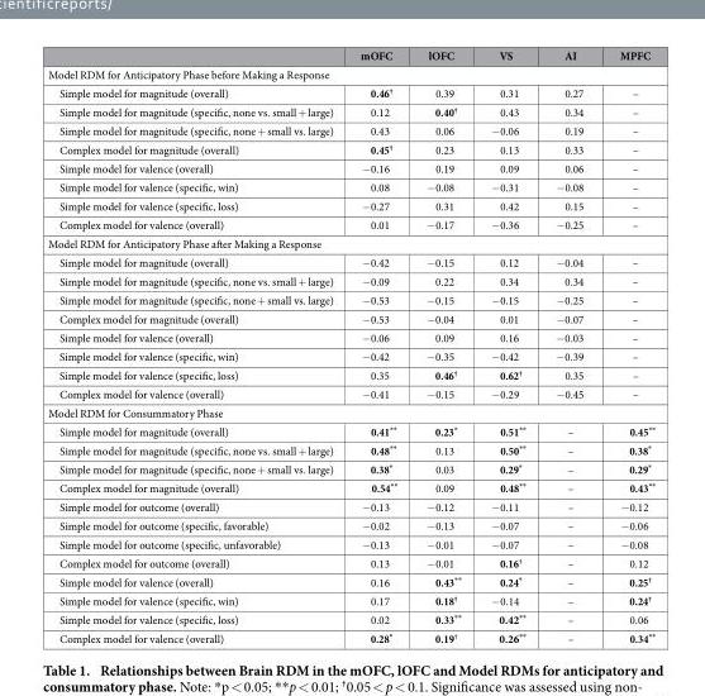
<table><thead><tr><td></td><td>mOFC</td><td>lOFC</td><td>VS</td><td>AI</td><td>MPFC</td></tr></thead><tbody><tr><td colspan="6">Model RDM for Anticipatory Phase before Making a Response</td></tr><tr><td>Simple model for magnitude (overall)</td><td>0.46<sup>†</sup></td><td>0.39</td><td>0.31</td><td>0.27</td><td>–</td></tr><tr><td>Simple model for magnitude (specific, none vs. small + large)</td><td>0.12</td><td>0.40<sup>†</sup></td><td>0.43</td><td>0.34</td><td>–</td></tr><tr><td>Simple model for magnitude (specific, none + small vs. large)</td><td>0.43</td><td>0.06</td><td>− 0.06</td><td>0.19</td><td>–</td></tr><tr><td>Complex model for magnitude (overall)</td><td>0.45<sup>†</sup></td><td>0.23</td><td>0.13</td><td>0.33</td><td>–</td></tr><tr><td>Simple model for valence (overall)</td><td>− 0.16</td><td>0.19</td><td>0.09</td><td>0.06</td><td>–</td></tr><tr><td>Simple model for valence (specific, win)</td><td>0.08</td><td>− 0.08</td><td>− 0.31</td><td>− 0.08</td><td>–</td></tr><tr><td>Simple model for valence (specific, loss)</td><td>− 0.27</td><td>0.31</td><td>0.42</td><td>0.15</td><td>–</td></tr><tr><td>Complex model for valence (overall)</td><td>0.01</td><td>− 0.17</td><td>− 0.36</td><td>− 0.25</td><td>–</td></tr><tr><td colspan="6">Model RDM for Anticipatory Phase after Making a Response</td></tr><tr><td>Simple model for magnitude (overall)</td><td>− 0.42</td><td>− 0.15</td><td>0.12</td><td>− 0.04</td><td>–</td></tr><tr><td>Simple model for magnitude (specific, none vs. small + large)</td><td>− 0.09</td><td>0.22</td><td>0.34</td><td>0.34</td><td>–</td></tr><tr><td>Simple model for magnitude (specific, none + small vs. large)</td><td>− 0.53</td><td>− 0.15</td><td>− 0.15</td><td>− 0.25</td><td>–</td></tr><tr><td>Complex model for magnitude (overall)</td><td>− 0.53</td><td>− 0.04</td><td>0.01</td><td>− 0.07</td><td>–</td></tr><tr><td>Simple model for valence (overall)</td><td>− 0.06</td><td>0.09</td><td>0.16</td><td>− 0.03</td><td>–</td></tr><tr><td>Simple model for valence (specific, win)</td><td>− 0.42</td><td>− 0.35</td><td>− 0.42</td><td>− 0.39</td><td>–</td></tr><tr><td>Simple model for valence (specific, loss)</td><td>0.35</td><td>0.46<sup>†</sup></td><td>0.62<sup>†</sup></td><td>0.35</td><td>–</td></tr><tr><td>Complex model for valence (overall)</td><td>− 0.41</td><td>− 0.15</td><td>− 0.29</td><td>− 0.45</td><td>–</td></tr><tr><td colspan="6">Model RDM for Consummatory Phase</td></tr><tr><td>Simple model for magnitude (overall)</td><td>0.41**</td><td>0.23*</td><td>0.51**</td><td>–</td><td>0.45**</td></tr><tr><td>Simple model for magnitude (specific, none vs. small + large)</td><td>0.48**</td><td>0.13</td><td>0.50**</td><td>–</td><td>0.38*</td></tr><tr><td>Simple model for magnitude (specific, none + small vs. large)</td><td>0.38*</td><td>0.03</td><td>0.29*</td><td>–</td><td>0.29*</td></tr><tr><td>Complex model for magnitude (overall)</td><td>0.54**</td><td>0.09</td><td>0.48**</td><td>–</td><td>0.43**</td></tr><tr><td>Simple model for outcome (overall)</td><td>− 0.13</td><td>− 0.12</td><td>− 0.11</td><td>–</td><td>− 0.12</td></tr><tr><td>Simple model for outcome (specific, favorable)</td><td>− 0.02</td><td>− 0.13</td><td>− 0.07</td><td>–</td><td>− 0.06</td></tr><tr><td>Simple model for outcome (specific, unfavorable)</td><td>− 0.13</td><td>− 0.01</td><td>− 0.07</td><td>–</td><td>− 0.08</td></tr><tr><td>Complex model for outcome (overall)</td><td>0.13</td><td>− 0.01</td><td>0.16<sup>†</sup></td><td>–</td><td>0.12</td></tr><tr><td>Simple model for valence (overall)</td><td>0.16</td><td>0.43**</td><td>0.24*</td><td>–</td><td>0.25<sup>†</sup></td></tr><tr><td>Simple model for valence (specific, win)</td><td>0.17</td><td>0.18<sup>†</sup></td><td>− 0.14</td><td>–</td><td>0.24<sup>†</sup></td></tr><tr><td>Simple model for valence (specific, loss)</td><td>0.02</td><td>0.33**</td><td>0.42**</td><td>–</td><td>0.06</td></tr><tr><td>Complex model for valence (overall)</td><td>0.28*</td><td>0.19<sup>†</sup></td><td>0.26**</td><td>–</td><td>0.34**</td></tr></tbody></table>